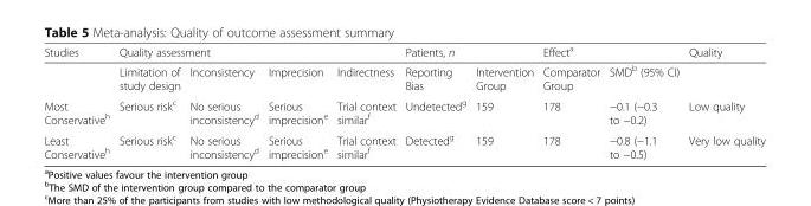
<table><thead><tr><td rowspan="2">Studies</td><td colspan="4">Quality assessment</td><td colspan="2">Patients, n</td><td colspan="2">Effect<sup>a</sup></td><td rowspan="2">Quality</td></tr><tr><td>Limitation of study design</td><td>Inconsistency</td><td>Imprecision</td><td>Indirectness</td><td>Reporting Bias</td><td>Intervention Group</td><td>Comparator Group</td><td>SMD<sup>b</sup> (95% CI)</td></tr></thead><tbody><tr><td>Most Conservative<sup>h</sup></td><td>Serious risk<sup>c</sup></td><td>No serious inconsistency<sup>d</sup></td><td>Serious imprecision<sup>e</sup></td><td>Trial context similar<sup>f</sup></td><td>Undetected<sup>g</sup></td><td>159</td><td>178</td><td>−0.1 (−0.3 to −0.2)</td><td>Low quality</td></tr><tr><td>Least Conservative<sup>h</sup></td><td>Serious risk<sup>c</sup></td><td>No serious inconsistency<sup>d</sup></td><td>Serious imprecision<sup>e</sup></td><td>Trial context similar<sup>f</sup></td><td>Detected<sup>g</sup></td><td>159</td><td>178</td><td>−0.8 (−1.1 to −0.5)</td><td>Very low quality</td></tr></tbody></table>